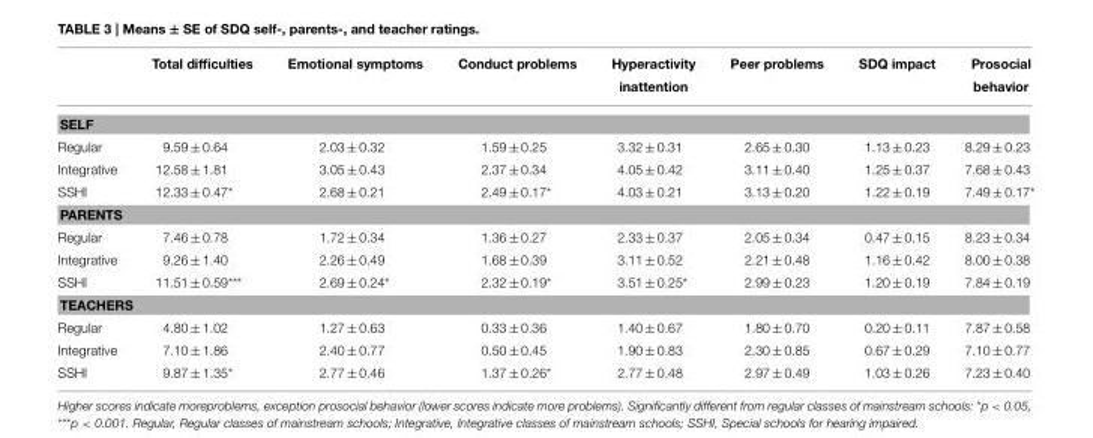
<table><thead><tr><td></td><td>Total difficulties</td><td>Emotional symptoms</td><td>Conduct problems</td><td>Hyperactivity inattention</td><td>Peer problems</td><td>SDQ impact</td><td>Prosocial behavior</td></tr></thead><tbody><tr><td colspan="8">SELF</td></tr><tr><td>Regular</td><td>9.59 ± 0.64</td><td>2.03 ± 0.32</td><td>1.59 ± 0.25</td><td>3.32 ± 0.31</td><td>2.65 ± 0.30</td><td>1.13 ± 0.23</td><td>8.29 ± 0.23</td></tr><tr><td>Integrative</td><td>12.58 ± 1.81</td><td>3.05 ± 0.43</td><td>2.37 ± 0.34</td><td>4.05 ± 0.42</td><td>3.11 ± 0.40</td><td>1.25 ± 0.37</td><td>7.68 ± 0.43</td></tr><tr><td>SSHI</td><td>12.33 ± 0.47*</td><td>2.68 ± 0.21</td><td>2.49 ± 0.17*</td><td>4.03 ± 0.21</td><td>3.13 ± 0.20</td><td>1.22 ± 0.19</td><td>7.49 ± 0.17*</td></tr><tr><td colspan="8">PARENTS</td></tr><tr><td>Regular</td><td>7.46 ± 0.78</td><td>1.72 ± 0.34</td><td>1.36 ± 0.27</td><td>2.33 ± 0.37</td><td>2.05 ± 0.34</td><td>0.47 ± 0.15</td><td>8.23 ± 0.34</td></tr><tr><td>Integrative</td><td>9.26 ± 1.40</td><td>2.26 ± 0.49</td><td>1.68 ± 0.39</td><td>3.11 ± 0.52</td><td>2.21 ± 0.48</td><td>1.16 ± 0.42</td><td>8.00 ± 0.38</td></tr><tr><td>SSHI</td><td>11.51 ± 0.59***</td><td>2.69 ± 0.24*</td><td>2.32 ± 0.19*</td><td>3.51 ± 0.25*</td><td>2.99 ± 0.23</td><td>1.20 ± 0.19</td><td>7.84 ± 0.19</td></tr><tr><td colspan="8">TEACHERS</td></tr><tr><td>Regular</td><td>4.80 ± 1.02</td><td>1.27 ± 0.63</td><td>0.33 ± 0.36</td><td>1.40 ± 0.67</td><td>1.80 ± 0.70</td><td>0.20 ± 0.11</td><td>7.87 ± 0.58</td></tr><tr><td>Integrative</td><td>7.10 ± 1.86</td><td>2.40 ± 0.77</td><td>0.50 ± 0.45</td><td>1.90 ± 0.83</td><td>2.30 ± 0.85</td><td>0.67 ± 0.29</td><td>7.10 ± 0.77</td></tr><tr><td>SSHI</td><td>9.87 ± 1.35*</td><td>2.77 ± 0.46</td><td>1.37 ± 0.26*</td><td>2.77 ± 0.48</td><td>2.97 ± 0.49</td><td>1.03 ± 0.26</td><td>7.23 ± 0.40</td></tr></tbody></table>